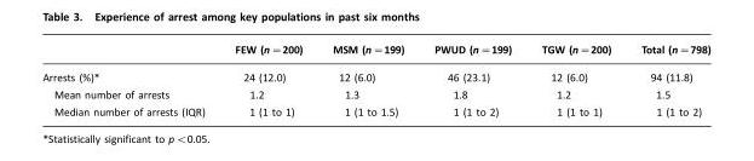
<table><thead><tr><td></td><td>FEW (n=200)</td><td>MSM (n=199)</td><td>PWUD (n=199)</td><td>TGW (n=200)</td><td>Total (n=798)</td></tr></thead><tbody><tr><td>Arrests (%)*</td><td>24 (12.0)</td><td>12 (6.0)</td><td>46 (23.1)</td><td>12 (6.0)</td><td>94 (11.8)</td></tr><tr><td>Mean number of arrests</td><td>1.2</td><td>1.3</td><td>1.8</td><td>1.2</td><td>1.5</td></tr><tr><td>Median number of arrests (IQR)</td><td>1 (1 to 1)</td><td>1 (1 to 1.5)</td><td>1 (1 to 2)</td><td>1 (1 to 1)</td><td>1 (1 to 2)</td></tr></tbody></table>